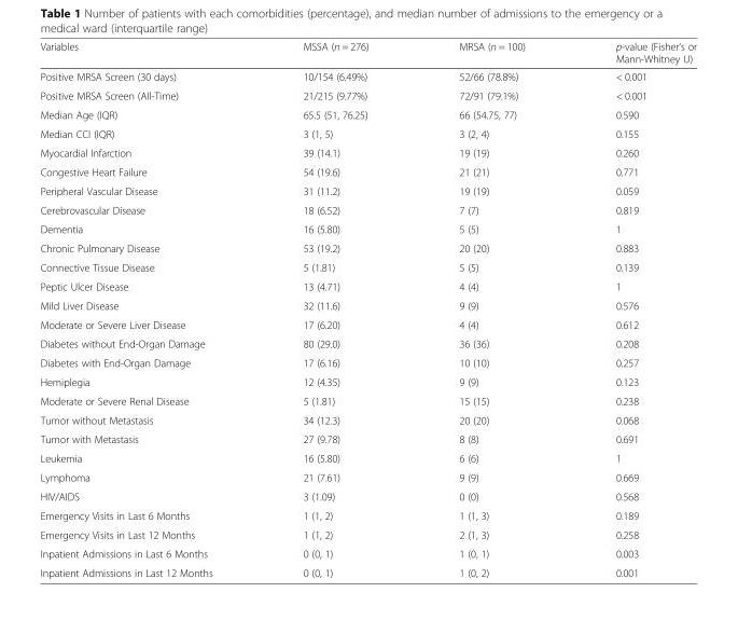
<table><thead><tr><td>Variables</td><td>MSSA (n = 276)</td><td>MRSA (n = 100)</td><td>p-value (Fisher’s or Mann-Whitney U)</td></tr></thead><tbody><tr><td>Positive MRSA Screen (30 days)</td><td>10/154 (6.49%)</td><td>52/66 (78.8%)</td><td>&lt; 0.001</td></tr><tr><td>Positive MRSA Screen (All-Time)</td><td>21/215 (9.77%)</td><td>72/91 (79.1%)</td><td>&lt; 0.001</td></tr><tr><td>Median Age (IQR)</td><td>65.5 (51, 76.25)</td><td>66 (54.75, 77)</td><td>0.590</td></tr><tr><td>Median CCI (IQR)</td><td>3 (1, 5)</td><td>3 (2, 4)</td><td>0.155</td></tr><tr><td>Myocardial Infarction</td><td>39 (14.1)</td><td>19 (19)</td><td>0.260</td></tr><tr><td>Congestive Heart Failure</td><td>54 (19.6)</td><td>21 (21)</td><td>0.771</td></tr><tr><td>Peripheral Vascular Disease</td><td>31 (11.2)</td><td>19 (19)</td><td>0.059</td></tr><tr><td>Cerebrovascular Disease</td><td>18 (6.52)</td><td>7 (7)</td><td>0.819</td></tr><tr><td>Dementia</td><td>16 (5.80)</td><td>5 (5)</td><td>1</td></tr><tr><td>Chronic Pulmonary Disease</td><td>53 (19.2)</td><td>20 (20)</td><td>0.883</td></tr><tr><td>Connective Tissue Disease</td><td>5 (1.81)</td><td>5 (5)</td><td>0.139</td></tr><tr><td>Peptic Ulcer Disease</td><td>13 (4.71)</td><td>4 (4)</td><td>1</td></tr><tr><td>Mild Liver Disease</td><td>32 (11.6)</td><td>9 (9)</td><td>0.576</td></tr><tr><td>Moderate or Severe Liver Disease</td><td>17 (6.20)</td><td>4 (4)</td><td>0.612</td></tr><tr><td>Diabetes without End-Organ Damage</td><td>80 (29.0)</td><td>36 (36)</td><td>0.208</td></tr><tr><td>Diabetes with End-Organ Damage</td><td>17 (6.16)</td><td>10 (10)</td><td>0.257</td></tr><tr><td>Hemiplegia</td><td>12 (4.35)</td><td>9 (9)</td><td>0.123</td></tr><tr><td>Moderate or Severe Renal Disease</td><td>5 (1.81)</td><td>15 (15)</td><td>0.238</td></tr><tr><td>Tumor without Metastasis</td><td>34 (12.3)</td><td>20 (20)</td><td>0.068</td></tr><tr><td>Tumor with Metastasis</td><td>27 (9.78)</td><td>8 (8)</td><td>0.691</td></tr><tr><td>Leukemia</td><td>16 (5.80)</td><td>6 (6)</td><td>1</td></tr><tr><td>Lymphoma</td><td>21 (7.61)</td><td>9 (9)</td><td>0.669</td></tr><tr><td>HIV/AIDS</td><td>3 (1.09)</td><td>0 (0)</td><td>0.568</td></tr><tr><td>Emergency Visits in Last 6 Months</td><td>1 (1, 2)</td><td>1 (1, 3)</td><td>0.189</td></tr><tr><td>Emergency Visits in Last 12 Months</td><td>1 (1, 2)</td><td>2 (1, 3)</td><td>0.258</td></tr><tr><td>Inpatient Admissions in Last 6 Months</td><td>0 (0, 1)</td><td>1 (0, 1)</td><td>0.003</td></tr><tr><td>Inpatient Admissions in Last 12 Months</td><td>0 (0, 1)</td><td>1 (0, 2)</td><td>0.001</td></tr></tbody></table>